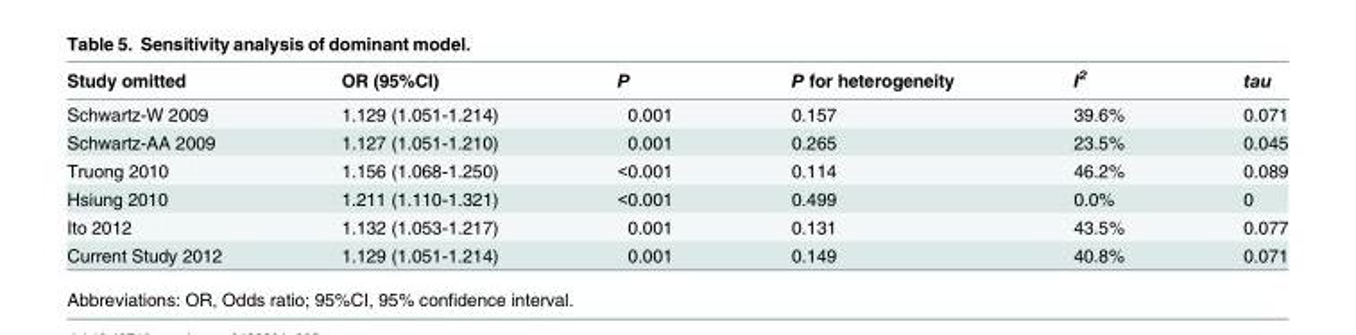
<table><thead><tr><td>Study omitted</td><td>OR (95%CI)</td><td>P</td><td>P for heterogeneity</td><td>I<sup>2</sup></td><td>tau</td></tr></thead><tbody><tr><td>Schwartz-W 2009</td><td>1.129 (1.051-1.214)</td><td>0.001</td><td>0.157</td><td>39.6%</td><td>0.071</td></tr><tr><td>Schwartz-AA 2009</td><td>1.127 (1.051-1.210)</td><td>0.001</td><td>0.265</td><td>23.5%</td><td>0.045</td></tr><tr><td>Truong 2010</td><td>1.156 (1.068-1.250)</td><td>&lt;0.001</td><td>0.114</td><td>46.2%</td><td>0.089</td></tr><tr><td>Hsiung 2010</td><td>1.211 (1.110-1.321)</td><td>&lt;0.001</td><td>0.499</td><td>0.0%</td><td>0</td></tr><tr><td>Ito 2012</td><td>1.132 (1.053-1.217)</td><td>0.001</td><td>0.131</td><td>43.5%</td><td>0.077</td></tr><tr><td>Current Study 2012</td><td>1.129 (1.051-1.214)</td><td>0.001</td><td>0.149</td><td>40.8%</td><td>0.071</td></tr></tbody></table>